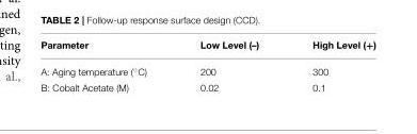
<table><thead><tr><td>Parameter</td><td>Low Level (–)</td><td>High Level (+)</td></tr></thead><tbody><tr><td>A: Aging temperature (◦C)</td><td>200</td><td>300</td></tr><tr><td>B: Cobalt Acetate (M)</td><td>0.02</td><td>0.1</td></tr></tbody></table>